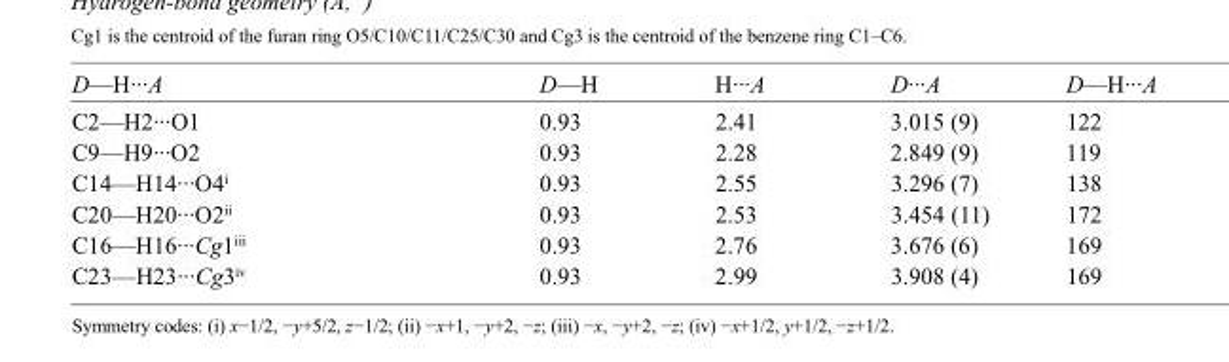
<table><tbody><tr><td>D—H···A</td><td>D—H</td><td>H···A</td><td>D···A</td><td>D—H···A</td></tr><tr><td>C2—H2···O1</td><td>0.93</td><td>2.41</td><td>3.015 (9)</td><td>122</td></tr><tr><td>C9—H9···O2</td><td>0.93</td><td>2.28</td><td>2.849 (9)</td><td>119</td></tr><tr><td>C14—H14···O4<sup>i</sup></td><td>0.93</td><td>2.55</td><td>3.296 (7)</td><td>138</td></tr><tr><td>C20—H20···O2<sup>ii</sup></td><td>0.93</td><td>2.53</td><td>3.454 (11)</td><td>172</td></tr><tr><td>C16—H16···Cg1<sup>iii</sup></td><td>0.93</td><td>2.76</td><td>3.676 (6)</td><td>169</td></tr><tr><td>C23—H23···Cg3<sup>iv</sup></td><td>0.93</td><td>2.99</td><td>3.908 (4)</td><td>169</td></tr></tbody></table>